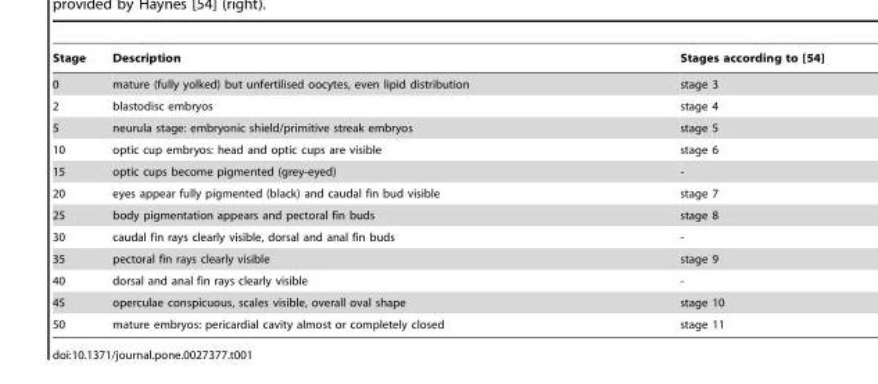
<table><thead><tr><td>Stage</td><td>Description</td><td>Stages according to [54]</td></tr></thead><tbody><tr><td>0</td><td>mature (fully yolked) but unfertilised oocytes, even lipid distribution</td><td>stage 3</td></tr><tr><td>2</td><td>blastodisc embryos</td><td>stage 4</td></tr><tr><td>5</td><td>neurula stage: embryonic shield/primitive streak embryos</td><td>stage 5</td></tr><tr><td>10</td><td>optic cup embryos: head and optic cups are visible</td><td>stage 6</td></tr><tr><td>15</td><td>optic cups become pigmented (grey-eyed)</td><td>-</td></tr><tr><td>20</td><td>eyes appear fully pigmented (black) and caudal fin bud visible</td><td>stage 7</td></tr><tr><td>25</td><td>body pigmentation appears and pectoral fin buds</td><td>stage 8</td></tr><tr><td>30</td><td>caudal fin rays clearly visible, dorsal and anal fin buds</td><td>-</td></tr><tr><td>35</td><td>pectoral fin rays clearly visible</td><td>stage 9</td></tr><tr><td>40</td><td>dorsal and anal fin rays clearly visible</td><td>-</td></tr><tr><td>45</td><td>operculae conspicuous, scales visible, overall oval shape</td><td>stage 10</td></tr><tr><td>50</td><td>mature embryos: pericardial cavity almost or completely closed</td><td>stage 11</td></tr></tbody></table>